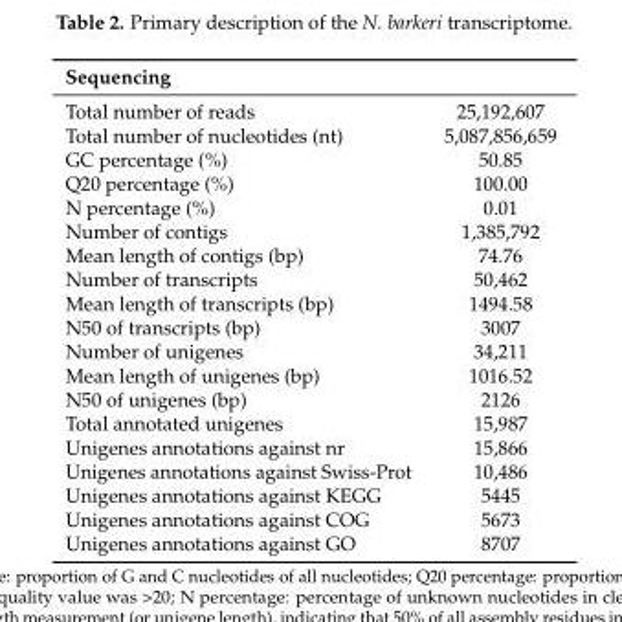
<table><thead><tr><td>Sequencing</td><td></td></tr></thead><tbody><tr><td>Total number of reads</td><td>25,192,607</td></tr><tr><td>Total number of nucleotides (nt)</td><td>5,087,856,659</td></tr><tr><td>GC percentage (%)</td><td>50.85</td></tr><tr><td>Q20 percentage (%)</td><td>100.00</td></tr><tr><td>N percentage (%)</td><td>0.01</td></tr><tr><td>Number of contigs</td><td>1,385,792</td></tr><tr><td>Mean length of contigs (bp)</td><td>74.76</td></tr><tr><td>Number of transcripts</td><td>50,462</td></tr><tr><td>Mean length of transcripts (bp)</td><td>1494.58</td></tr><tr><td>N50 of transcripts (bp)</td><td>3007</td></tr><tr><td>Number of unigenes</td><td>34,211</td></tr><tr><td>Mean length of unigenes (bp)</td><td>1016.52</td></tr><tr><td>N50 of unigenes (bp)</td><td>2126</td></tr><tr><td>Total annotated unigenes</td><td>15,987</td></tr><tr><td>Unigenes annotations against nr</td><td>15,866</td></tr><tr><td>Unigenes annotations against Swiss-Prot</td><td>10,486</td></tr><tr><td>Unigenes annotations against KEGG</td><td>5445</td></tr><tr><td>Unigenes annotations against COG</td><td>5673</td></tr><tr><td>Unigenes annotations against GO</td><td>8707</td></tr></tbody></table>